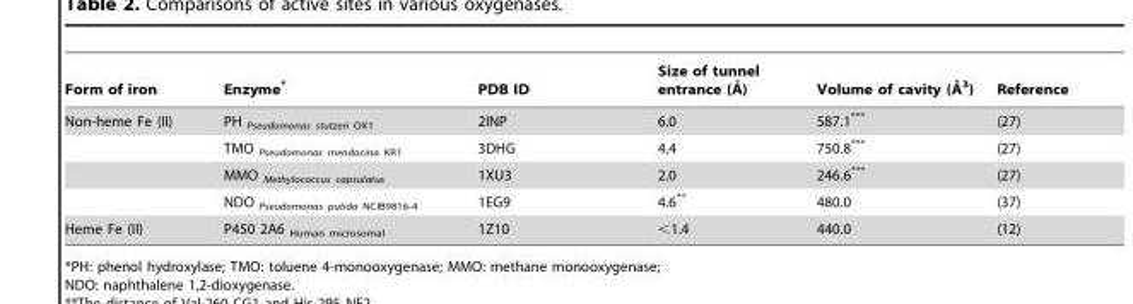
<table><thead><tr><td>Form of iron</td><td>Enzyme*</td><td>PDB ID</td><td>Size of tunnel entrance (A˚ )</td><td>Volume of cavity (A˚ 3)</td><td>Reference</td></tr></thead><tbody><tr><td rowspan="4">Non-heme Fe (II)</td><td>PH <sub>Pseudomonas stutzeri OX1</sub></td><td>2INP</td><td>6.0</td><td>587.1***</td><td>(27)</td></tr><tr><td>TMO <sub>Pseudomonas mendocina KR1</sub></td><td>3DHG</td><td>4.4</td><td>750.8***</td><td>(27)</td></tr><tr><td>MMO <sub>Methylococcus capsulatus</sub></td><td>1XU3</td><td>2.0</td><td>246.6***</td><td>(27)</td></tr><tr><td>NDO <sub>Pseudomonas putida NCIB9816-4</sub></td><td>1EG9</td><td>4.6**</td><td>480.0</td><td>(37)</td></tr><tr><td>Heme Fe (II)</td><td>P450 2A6 <sub>Human microsomal</sub></td><td>1Z10</td><td>&lt;1.4</td><td>440.0</td><td>(12)</td></tr></tbody></table>